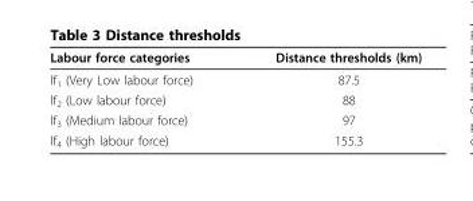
<table><thead><tr><td>Labour force categories</td><td>Distance thresholds (km)</td></tr></thead><tbody><tr><td>lf<sub>1</sub> (Very Low labour force)</td><td>87.5</td></tr><tr><td>lf<sub>2</sub> (Low labour force)</td><td>88</td></tr><tr><td>lf<sub>3</sub> (Medium labour force)</td><td>97</td></tr><tr><td>lf<sub>4</sub> (High labour force)</td><td>155.3</td></tr></tbody></table>